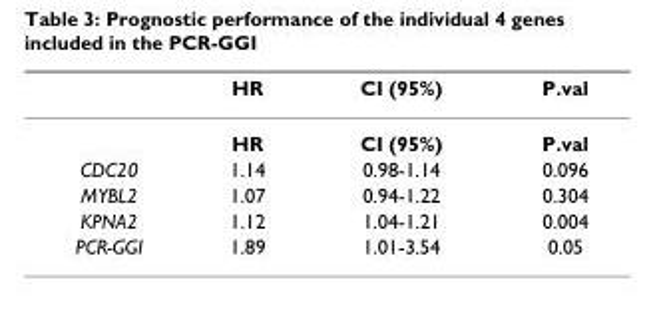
<table><thead><tr><td></td><td>HR</td><td>CI (95%)</td><td>P.val</td></tr></thead><tbody><tr><td></td><td>HR</td><td>CI (95%)</td><td>P.val</td></tr><tr><td>CDC20</td><td>1.14</td><td>0.98-1.14</td><td>0.096</td></tr><tr><td>MYBL2</td><td>1.07</td><td>0.94-1.22</td><td>0.304</td></tr><tr><td>KPNA2</td><td>1.12</td><td>1.04-1.21</td><td>0.004</td></tr><tr><td>PCR-GGI</td><td>1.89</td><td>1.01-3.54</td><td>0.05</td></tr></tbody></table>